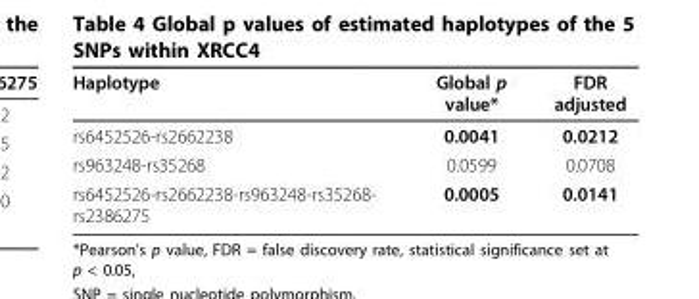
<table><thead><tr><td>Haplotype</td><td>Global p value*</td><td>FDR adjusted</td></tr></thead><tbody><tr><td>rs6452526-rs2662238</td><td>0.0041</td><td>0.0212</td></tr><tr><td>rs963248-rs35268</td><td>0.0599</td><td>0.0708</td></tr><tr><td>rs6452526-rs2662238-rs963248-rs35268- rs2386275</td><td>0.0005</td><td>0.0141</td></tr></tbody></table>